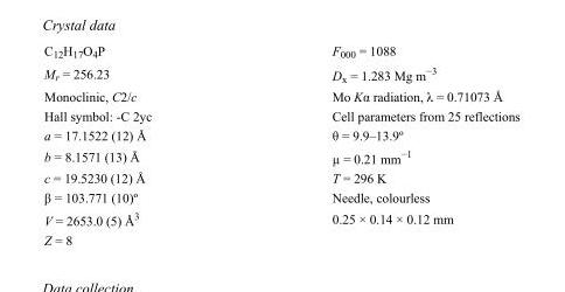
<table><tbody><tr><td>C<sub>12</sub>H<sub>17</sub>O<sub>4</sub>P</td><td>F000 = 1088</td></tr><tr><td>M<sub>r</sub> = 256.23</td><td>D<sub>x</sub> = 1.283 Mg m<sup>−3</sup></td></tr><tr><td>Monoclinic, C2/c</td><td>Mo Kα radiation, λ = 0.71073 Å</td></tr><tr><td>Hall symbol: -C 2yc</td><td>Cell parameters from 25 reflections</td></tr><tr><td>a = 17.1522 (12) Å</td><td>θ = 9.9–13.9º</td></tr><tr><td>b = 8.1571 (13) Å</td><td>µ = 0.21 mm<sup>−1</sup></td></tr><tr><td>c = 19.5230 (12) Å</td><td>T = 296 K</td></tr><tr><td>β = 103.771 (10)º</td><td>Needle, colourless</td></tr><tr><td>V = 2653.0 (5) Å<sup>3</sup></td><td>0.25 × 0.14 × 0.12 mm</td></tr><tr><td>Z = 8</td><td></td></tr></tbody></table>